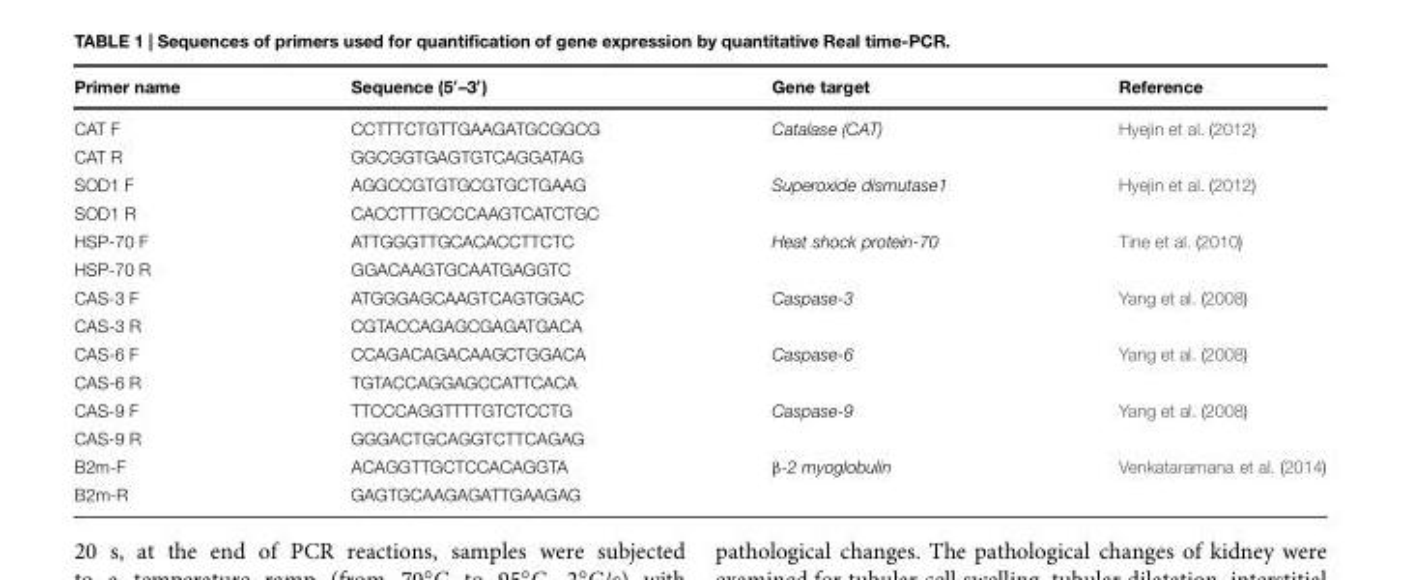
<table><thead><tr><td>Primer name</td><td>Sequence (5′–3′)</td><td>Gene target</td><td>Reference</td></tr></thead><tbody><tr><td>CAT F</td><td>CCTTTCTGTTGAAGATGCGGCG</td><td>Catalase (CAT)</td><td>Hyejin et al. (2012)</td></tr><tr><td>CAT R</td><td>GGCGGTGAGTGTCAGGATAG</td><td></td><td></td></tr><tr><td>SOD1 F</td><td>AGGCCGTGTGCGTGCTGAAG</td><td>Superoxide dismutase1</td><td>Hyejin et al. (2012)</td></tr><tr><td>SOD1 R</td><td>CACCTTTGCCCAAGTCATCTGC</td><td></td><td></td></tr><tr><td>HSP-70 F</td><td>ATTGGGTTGCACACCTTCTC</td><td>Heat shock protein-70</td><td>Tine et al. (2010)</td></tr><tr><td>HSP-70 R</td><td>GGACAAGTGCAATGAGGTC</td><td></td><td></td></tr><tr><td>CAS-3 F</td><td>ATGGGAGCAAGTCAGTGGAC</td><td>Caspase-3</td><td>Yang et al. (2008)</td></tr><tr><td>CAS-3 R</td><td>CGTACCAGAGCGAGATGACA</td><td></td><td></td></tr><tr><td>CAS-6 F</td><td>CCAGACAGACAAGCTGGACA</td><td>Caspase-6</td><td>Yang et al. (2008)</td></tr><tr><td>CAS-6 R</td><td>TGTACCAGGAGCCATTCACA</td><td></td><td></td></tr><tr><td>CAS-9 F</td><td>TTCCCAGGTTTTGTCTCCTG</td><td>Caspase-9</td><td>Yang et al. (2008)</td></tr><tr><td>CAS-9 R</td><td>GGGACTGCAGGTCTTCAGAG</td><td></td><td></td></tr><tr><td>B2m-F</td><td>ACAGGTTGCTCCACAGGTA</td><td>β-2 myoglobulin</td><td>Venkataramana et al. (2014)</td></tr><tr><td>B2m-R</td><td>GAGTGCAAGAGATTGAAGAG</td><td></td><td></td></tr></tbody></table>